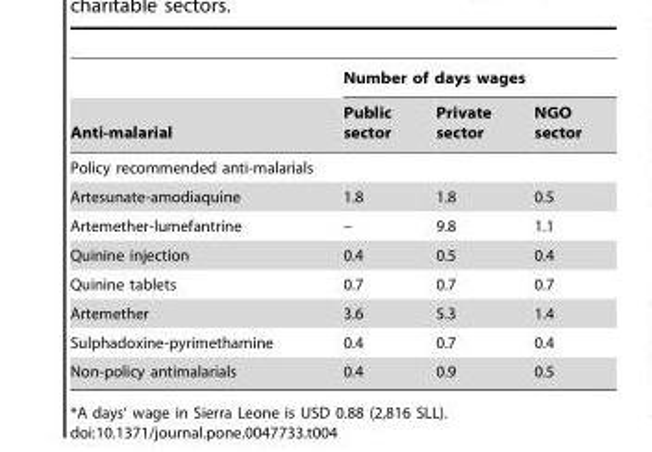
<table><thead><tr><td rowspan="2">Anti-malarial</td><td colspan="3">Number of days wages</td></tr><tr><td>Public sector</td><td>Private sector</td><td>NGO sector</td></tr></thead><tbody><tr><td colspan="4">Policy recommended anti-malarials</td></tr><tr><td>Artesunate-amodiaquine</td><td>1.8</td><td>1.8</td><td>0.5</td></tr><tr><td>Artemether-lumefantrine</td><td>–</td><td>9.8</td><td>1.1</td></tr><tr><td>Quinine injection</td><td>0.4</td><td>0.5</td><td>0.4</td></tr><tr><td>Quinine tablets</td><td>0.7</td><td>0.7</td><td>0.7</td></tr><tr><td>Artemether</td><td>3.6</td><td>5.3</td><td>1.4</td></tr><tr><td>Sulphadoxine-pyrimethamine</td><td>0.4</td><td>0.7</td><td>0.4</td></tr><tr><td>Non-policy antimalarials</td><td>0.4</td><td>0.9</td><td>0.5</td></tr></tbody></table>